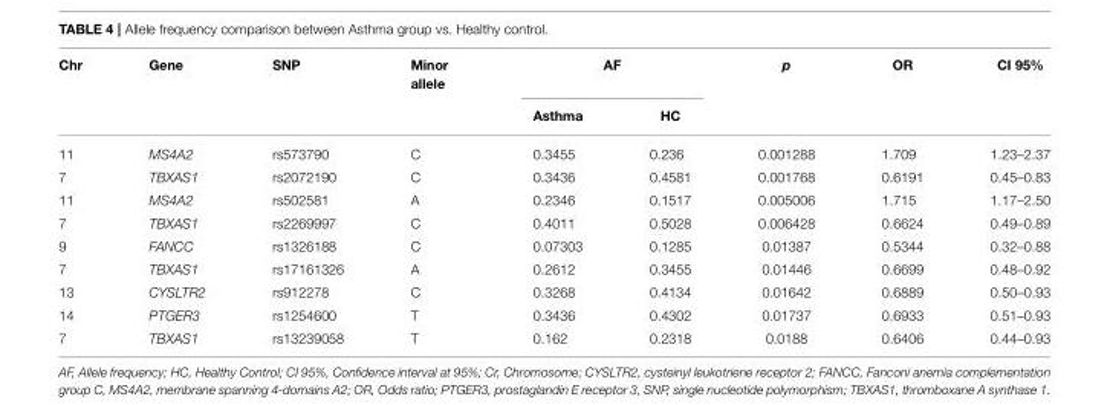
<table><thead><tr><td rowspan="2">Chr</td><td rowspan="2">Gene</td><td rowspan="2">SNP</td><td rowspan="2">Minor allele</td><td colspan="2">AF</td><td rowspan="2">p</td><td rowspan="2">OR</td><td rowspan="2">CI 95%</td></tr><tr><td>Asthma</td><td>HC</td></tr></thead><tbody><tr><td>11</td><td>MS4A2</td><td>rs573790</td><td>C</td><td>0.3455</td><td>0.236</td><td>0.001288</td><td>1.709</td><td>1.23–2.37</td></tr><tr><td>7</td><td>TBXAS1</td><td>rs2072190</td><td>C</td><td>0.3436</td><td>0.4581</td><td>0.001768</td><td>0.6191</td><td>0.45–0.83</td></tr><tr><td>11</td><td>MS4A2</td><td>rs502581</td><td>A</td><td>0.2346</td><td>0.1517</td><td>0.005006</td><td>1.715</td><td>1.17–2.50</td></tr><tr><td>7</td><td>TBXAS1</td><td>rs2269997</td><td>C</td><td>0.4011</td><td>0.5028</td><td>0.006428</td><td>0.6624</td><td>0.49–0.89</td></tr><tr><td>9</td><td>FANCC</td><td>rs1326188</td><td>C</td><td>0.07303</td><td>0.1285</td><td>0.01387</td><td>0.5344</td><td>0.32–0.88</td></tr><tr><td>7</td><td>TBXAS1</td><td>rs17161326</td><td>A</td><td>0.2612</td><td>0.3455</td><td>0.01446</td><td>0.6699</td><td>0.48–0.92</td></tr><tr><td>13</td><td>CYSLTR2</td><td>rs912278</td><td>C</td><td>0.3268</td><td>0.4134</td><td>0.01642</td><td>0.6889</td><td>0.50–0.93</td></tr><tr><td>14</td><td>PTGER3</td><td>rs1254600</td><td>T</td><td>0.3436</td><td>0.4302</td><td>0.01737</td><td>0.6933</td><td>0.51–0.93</td></tr><tr><td>7</td><td>TBXAS1</td><td>rs13239058</td><td>T</td><td>0.162</td><td>0.2318</td><td>0.0188</td><td>0.6406</td><td>0.44–0.93</td></tr></tbody></table>